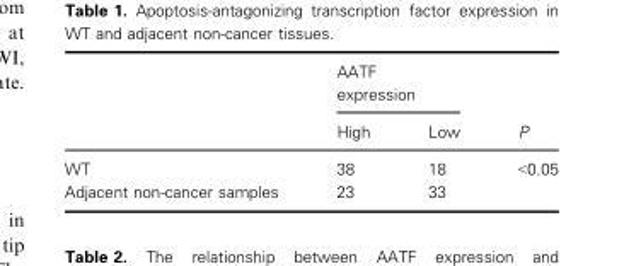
<table><thead><tr><td rowspan="2"></td><td colspan="2">AATF expression</td><td rowspan="2">P</td></tr><tr><td>High</td><td>Low</td></tr></thead><tbody><tr><td>WT</td><td>38</td><td>18</td><td rowspan="2">&lt;0.05</td></tr><tr><td>Adjacent non-cancer samples</td><td>23</td><td>33</td></tr></tbody></table>